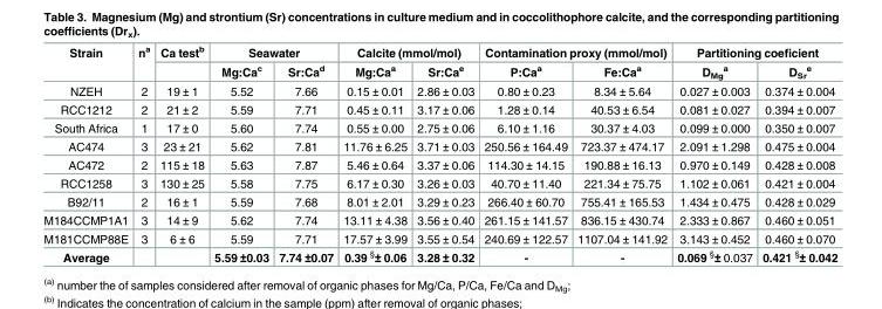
<table><thead><tr><td rowspan="2">Strain</td><td rowspan="2">n<sup>a</sup></td><td rowspan="2">Ca test<sup>b</sup></td><td colspan="2">Seawater</td><td colspan="2">Calcite (mmol/mol)</td><td colspan="2">Contamination proxy (mmol/mol)</td><td colspan="2">Partitioning coeficient</td></tr><tr><td>Mg:Ca<sup>c</sup></td><td>Sr:Ca<sup>d</sup></td><td>Mg:Ca<sup>a</sup></td><td>Sr:Ca<sup>e</sup></td><td>P:Ca<sup>a</sup></td><td>Fe:Ca<sup>a</sup></td><td>D<sub>Mg</sub> <sup>a</sup></td><td>D<sub>Sr</sub> <sup>e</sup></td></tr></thead><tbody><tr><td>NZEH</td><td>2</td><td>19 ± 1</td><td>5.52</td><td>7.66</td><td>0.15 ± 0.01</td><td>2.86 ± 0.03</td><td>0.80 ± 0.23</td><td>8.34 ± 5.64</td><td>0.027 ± 0.003</td><td>0.374 ± 0.004</td></tr><tr><td>RCC1212</td><td>2</td><td>21 ± 2</td><td>5.59</td><td>7.71</td><td>0.45 ± 0.11</td><td>3.17 ± 0.06</td><td>1.28 ± 0.14</td><td>40.53 ± 6.54</td><td>0.081 ± 0.027</td><td>0.394 ± 0.007</td></tr><tr><td>South Africa</td><td>1</td><td>17 ± 0</td><td>5.60</td><td>7.74</td><td>0.55 ± 0.00</td><td>2.75 ± 0.06</td><td>6.10 ± 1.16</td><td>30.37 ± 4.03</td><td>0.099 ± 0.000</td><td>0.350 ± 0.007</td></tr><tr><td>AC474</td><td>3</td><td>23 ± 21</td><td>5.62</td><td>7.81</td><td>11.76 ± 6.25</td><td>3.71 ± 0.03</td><td>250.56 ± 164.49</td><td>723.37 ± 474.17</td><td>2.091 ± 1.298</td><td>0.475 ± 0.004</td></tr><tr><td>AC472</td><td>2</td><td>115 ± 18</td><td>5.63</td><td>7.87</td><td>5.46 ± 0.64</td><td>3.37 ± 0.06</td><td>114.30 ± 14.15</td><td>190.88 ± 16.13</td><td>0.970 ± 0.149</td><td>0.428 ± 0.008</td></tr><tr><td>RCC1258</td><td>3</td><td>130 ± 25</td><td>5.58</td><td>7.75</td><td>6.17 ± 0.30</td><td>3.26 ± 0.03</td><td>40.70 ± 11.40</td><td>221.34 ± 75.75</td><td>1.102 ± 0.061</td><td>0.421 ± 0.004</td></tr><tr><td>B92/11</td><td>2</td><td>16 ± 1</td><td>5.59</td><td>7.68</td><td>8.01 ± 2.01</td><td>3.29 ± 0.23</td><td>266.40 ± 60.70</td><td>755.41 ± 165.53</td><td>1.434 ± 0.475</td><td>0.428 ± 0.029</td></tr><tr><td>M184CCMP1A1</td><td>3</td><td>14 ± 9</td><td>5.62</td><td>7.74</td><td>13.11 ± 4.38</td><td>3.56 ± 0.40</td><td>261.15 ± 141.57</td><td>836.15 ± 430.74</td><td>2.333 ± 0.867</td><td>0.460 ± 0.051</td></tr><tr><td>M181CCMP88E</td><td>3</td><td>6 ± 6</td><td>5.59</td><td>7.71</td><td>17.57 ± 3.99</td><td>3.55 ± 0.54</td><td>240.69 ± 122.57</td><td>1107.04 ± 141.92</td><td>3.143 ± 0.452</td><td>0.460 ± 0.070</td></tr><tr><td>Average</td><td></td><td></td><td>5.59 ±0.03</td><td>7.74 ±0.07</td><td>0.39 <sup>§</sup>± 0.06</td><td>3.28 ± 0.32</td><td>-</td><td>-</td><td>0.069 <sup>§</sup>± 0.037</td><td>0.421 <sup>§</sup>± 0.042</td></tr></tbody></table>